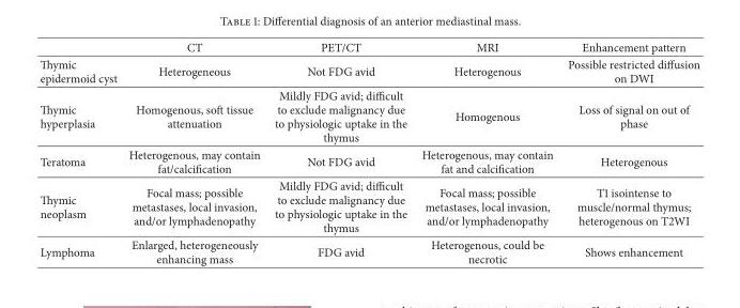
<table><thead><tr><td></td><td>CT</td><td>PET/CT</td><td>MRI</td><td>Enhancement pattern</td></tr></thead><tbody><tr><td>Thymic epidermoid cyst</td><td>Heterogeneous</td><td>Not FDG avid</td><td>Heterogenous</td><td>Possible restricted diffusion on DWI</td></tr><tr><td>Thymic hyperplasia</td><td>Homogenous, soft tissue attenuation</td><td>Mildly FDG avid; difficult to exclude malignancy due to physiologic uptake in the thymus</td><td>Homogenous</td><td>Loss of signal on out of phase</td></tr><tr><td>Teratoma</td><td>Heterogenous, may contain fat/calcification</td><td>Not FDG avid</td><td>Heterogenous, may contain fat and calcification</td><td>Heterogenous</td></tr><tr><td>Thymic neoplasm</td><td>Focal mass; possible metastases, local invasion, and/or lymphadenopathy</td><td>Mildly FDG avid; difficult to exclude malignancy due to physiologic uptake in the thymus</td><td>Focal mass; possible metastases, local invasion, and/or lymphadenopathy</td><td>T1 isointense to muscle/normal thymus; heterogenous on T2WI</td></tr><tr><td>Lymphoma</td><td>Enlarged, heterogeneously enhancing mass</td><td>FDG avid</td><td>Heterogenous, could be necrotic</td><td>Shows enhancement</td></tr></tbody></table>